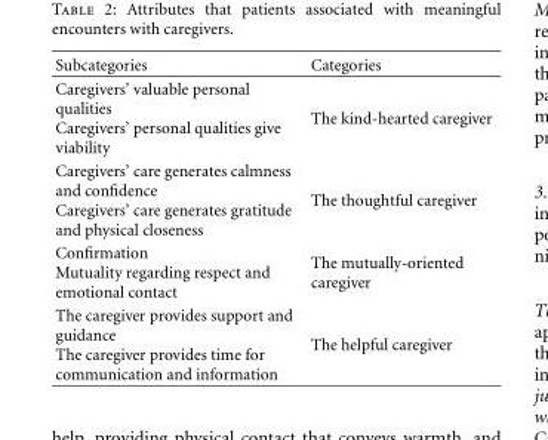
<table><thead><tr><td>Subcategories</td><td>Categories</td></tr></thead><tbody><tr><td>Caregivers’ valuable personal qualities Caregivers’ personal qualities give viability</td><td>The kind-hearted caregiver</td></tr><tr><td>Caregivers’ care generates calmness and confidence Caregivers’ care generates gratitude and physical closeness</td><td>The thoughtful caregiver</td></tr><tr><td>Confirmation Mutuality regarding respect and emotional contact</td><td>The mutually-oriented caregiver</td></tr><tr><td>The caregiver provides support and guidance The caregiver provides time for communication and information</td><td>The helpful caregiver</td></tr></tbody></table>